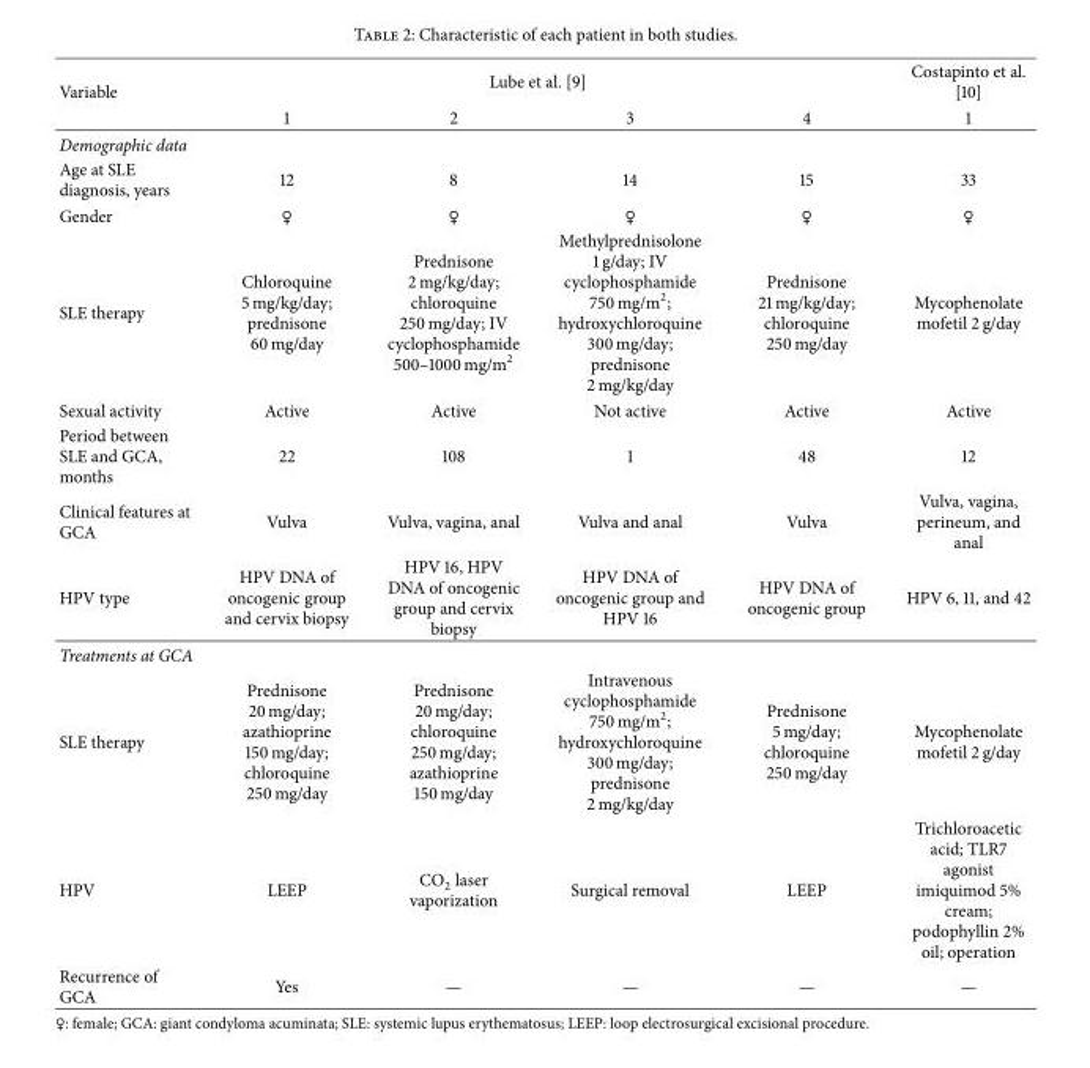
<table><thead><tr><td rowspan="2">Variable</td><td colspan="4">Lube et al. [9]</td><td rowspan="2">Costapinto et al. [10] 1</td></tr><tr><td>1</td><td>2</td><td>3</td><td>4</td></tr></thead><tbody><tr><td colspan="6">Demographic data</td></tr><tr><td>Age at SLE diagnosis, years</td><td>12</td><td>8</td><td>14</td><td>15</td><td>33</td></tr><tr><td>Gender</td><td>♀</td><td>♀</td><td>♀</td><td>♀</td><td>♀</td></tr><tr><td>SLE therapy</td><td>Chloroquine 5 mg/kg/day; prednisone 60 mg/day</td><td>Prednisone 2 mg/kg/day; chloroquine 250 mg/day; IV cyclophosphamide 500–1000 mg/m<sup>2</sup></td><td>Methylprednisolone 1 g/day; IV cyclophosphamide 750 mg/m<sup>2</sup>; hydroxychloroquine 300 mg/day; prednisone 2 mg/kg/day</td><td>Prednisone 21 mg/kg/day; chloroquine 250 mg/day</td><td>Mycophenolate mofetil 2 g/day</td></tr><tr><td>Sexual activity</td><td>Active</td><td>Active</td><td>Not active</td><td>Active</td><td>Active</td></tr><tr><td>Period between SLE and GCA, months</td><td>22</td><td>108</td><td>1</td><td>48</td><td>12</td></tr><tr><td>Clinical features at GCA</td><td>Vulva</td><td>Vulva, vagina, anal</td><td>Vulva and anal</td><td>Vulva</td><td>Vulva, vagina, perineum, and anal</td></tr><tr><td>HPV type</td><td>HPV DNA of oncogenic group and cervix biopsy</td><td>HPV 16, HPV DNA of oncogenic group and cervix biopsy</td><td>HPV DNA of oncogenic group and HPV 16</td><td>HPV DNA of oncogenic group</td><td>HPV 6, 11, and 42</td></tr><tr><td colspan="6">Treatments at GCA</td></tr><tr><td>SLE therapy</td><td>Prednisone 20 mg/day; azathioprine 150 mg/day; chloroquine 250 mg/day</td><td>Prednisone 20 mg/day; chloroquine 250 mg/day; azathioprine 150 mg/day</td><td>Intravenous cyclophosphamide 750 mg/m<sup>2</sup>; hydroxychloroquine 300 mg/day; prednisone 2 mg/kg/day</td><td>Prednisone 5 mg/day; chloroquine 250 mg/day</td><td>Mycophenolate mofetil 2 g/day</td></tr><tr><td>HPV</td><td>LEEP</td><td>CO<sub>2</sub> laser vaporization</td><td>Surgical removal</td><td>LEEP</td><td>Trichloroacetic acid; TLR7 agonist imiquimod 5% cream; podophyllin 2% oil; operation</td></tr><tr><td>Recurrence of GCA</td><td>Yes</td><td>—</td><td>—</td><td>—</td><td>—</td></tr></tbody></table>